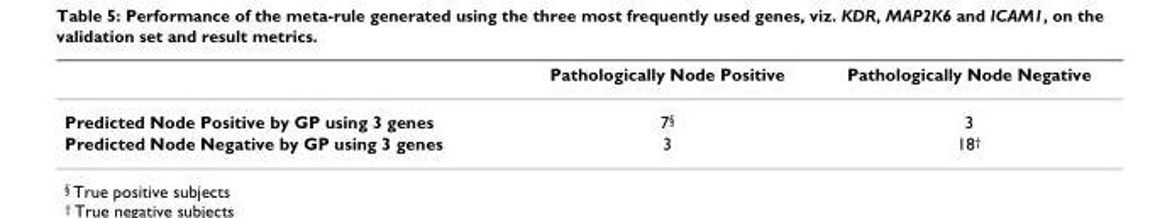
<table><thead><tr><td></td><td>Pathologically Node Positive</td><td>Pathologically Node Negative</td></tr></thead><tbody><tr><td>Predicted Node Positive by GP using 3 genes</td><td>7§</td><td>3</td></tr><tr><td>Predicted Node Negative by GP using 3 genes</td><td>3</td><td>18†</td></tr></tbody></table>